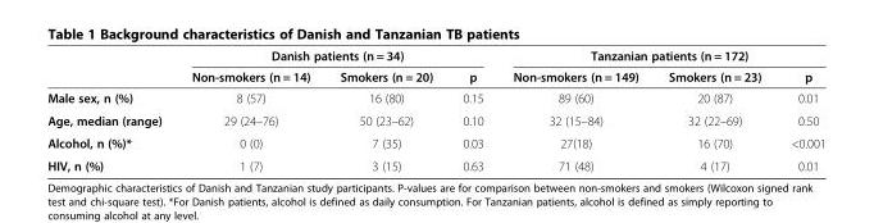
<table><thead><tr><td rowspan="2"></td><td colspan="3">Danish patients (n = 34)</td><td colspan="3">Tanzanian patients (n = 172)</td></tr><tr><td>Non-smokers (n = 14)</td><td>Smokers (n = 20)</td><td>p</td><td>Non-smokers (n = 149)</td><td>Smokers (n = 23)</td><td>p</td></tr></thead><tbody><tr><td>Male sex, n (%)</td><td>8 (57)</td><td>16 (80)</td><td>0.15</td><td>89 (60)</td><td>20 (87)</td><td>0.01</td></tr><tr><td>Age, median (range)</td><td>29 (24–76)</td><td>50 (23–62)</td><td>0.10</td><td>32 (15–84)</td><td>32 (22–69)</td><td>0.50</td></tr><tr><td>Alcohol, n (%)*</td><td>0 (0)</td><td>7 (35)</td><td>0.03</td><td>27(18)</td><td>16 (70)</td><td>&lt;0.001</td></tr><tr><td>HIV, n (%)</td><td>1 (7)</td><td>3 (15)</td><td>0.63</td><td>71 (48)</td><td>4 (17)</td><td>0.01</td></tr></tbody></table>